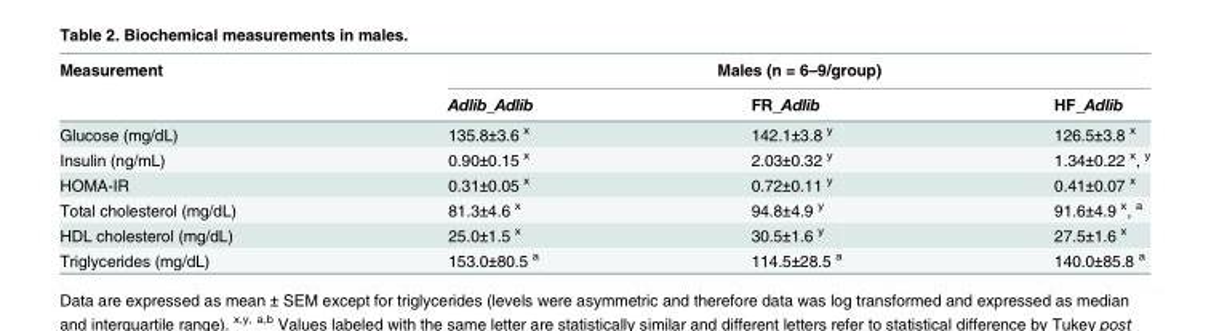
<table><thead><tr><td rowspan="2">Measurement</td><td colspan="3">Males (n = 6–9/group)</td></tr><tr><td>Adlib_Adlib</td><td>FR_Adlib</td><td>HF_Adlib</td></tr></thead><tbody><tr><td>Glucose (mg/dL)</td><td>135.8±3.6 <sup>x</sup></td><td>142.1±3.8 <sup>y</sup></td><td>126.5±3.8 <sup>x</sup></td></tr><tr><td>Insulin (ng/mL)</td><td>0.90±0.15 <sup>x</sup></td><td>2.03±0.32 <sup>y</sup></td><td>1.34±0.22 <sup>x</sup>, <sup>y</sup></td></tr><tr><td>HOMA-IR</td><td>0.31±0.05 <sup>x</sup></td><td>0.72±0.11 <sup>y</sup></td><td>0.41±0.07 <sup>x</sup></td></tr><tr><td>Total cholesterol (mg/dL)</td><td>81.3±4.6 <sup>x</sup></td><td>94.8±4.9 <sup>y</sup></td><td>91.6±4.9 <sup>x</sup>, <sup>a</sup></td></tr><tr><td>HDL cholesterol (mg/dL)</td><td>25.0±1.5 <sup>x</sup></td><td>30.5±1.6 <sup>y</sup></td><td>27.5±1.6 <sup>x</sup></td></tr><tr><td>Triglycerides (mg/dL)</td><td>153.0±80.5 <sup>a</sup></td><td>114.5±28.5 <sup>a</sup></td><td>140.0±85.8 <sup>a</sup></td></tr></tbody></table>